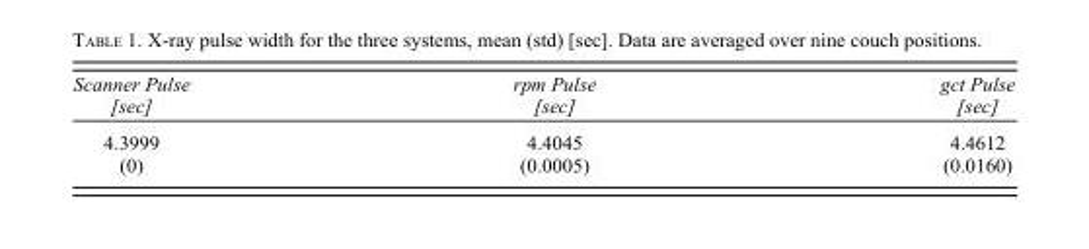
<table><thead><tr><td>Scanner Pulse [sec]</td><td>rpm Pulse [sec]</td><td>gct Pulse [sec]</td></tr></thead><tbody><tr><td>4.3999</td><td>4.4045</td><td>4.4612</td></tr><tr><td>(0)</td><td>(0.0005)</td><td>(0.0160)</td></tr></tbody></table>